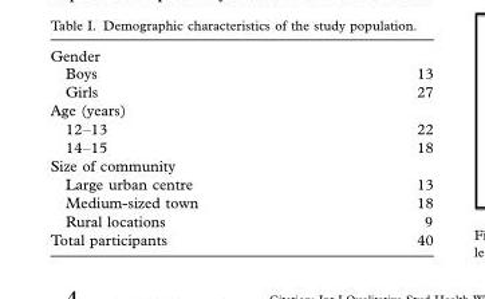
<table><tbody><tr><td colspan="2">Gender</td></tr><tr><td>Boys</td><td>13</td></tr><tr><td>Girls</td><td>27</td></tr><tr><td colspan="2">Age (years)</td></tr><tr><td>12–13</td><td>22</td></tr><tr><td>14–15</td><td>18</td></tr><tr><td colspan="2">Size of community</td></tr><tr><td>Large urban centre</td><td>13</td></tr><tr><td>Medium-sized town</td><td>18</td></tr><tr><td>Rural locations</td><td>9</td></tr><tr><td>Total participants</td><td>40</td></tr></tbody></table>